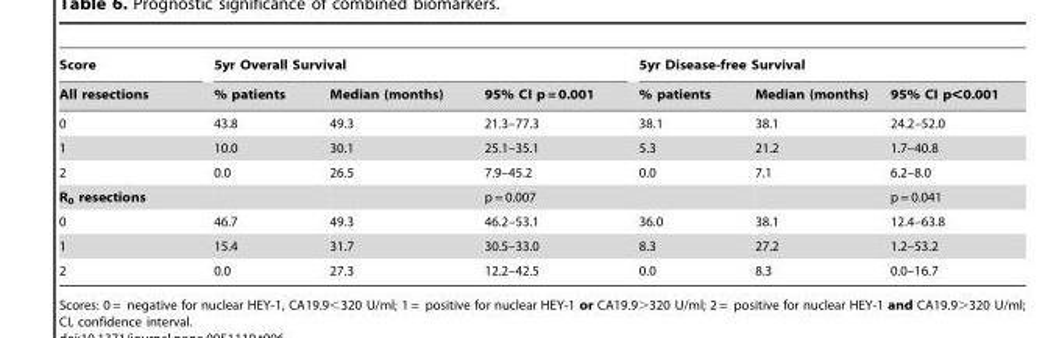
<table><thead><tr><td rowspan="2">Score All resections</td><td colspan="3">5yr Overall Survival</td><td colspan="3">5yr Disease-free Survival</td></tr><tr><td>% patients</td><td>Median (months)</td><td>95% CI p = 0.001</td><td>% patients</td><td>Median (months)</td><td>95% CI p&lt;0.001</td></tr></thead><tbody><tr><td>0</td><td>43.8</td><td>49.3</td><td>21.3–77.3</td><td>38.1</td><td>38.1</td><td>24.2–52.0</td></tr><tr><td>1</td><td>10.0</td><td>30.1</td><td>25.1–35.1</td><td>5.3</td><td>21.2</td><td>1.7–40.8</td></tr><tr><td>2</td><td>0.0</td><td>26.5</td><td>7.9–45.2</td><td>0.0</td><td>7.1</td><td>6.2–8.0</td></tr><tr><td>R<sub>0</sub> resections</td><td></td><td></td><td>p = 0.007</td><td></td><td></td><td>p = 0.041</td></tr><tr><td>0</td><td>46.7</td><td>49.3</td><td>46.2–53.1</td><td>36.0</td><td>38.1</td><td>12.4–63.8</td></tr><tr><td>1</td><td>15.4</td><td>31.7</td><td>30.5–33.0</td><td>8.3</td><td>27.2</td><td>1.2–53.2</td></tr><tr><td>2</td><td>0.0</td><td>27.3</td><td>12.2–42.5</td><td>0.0</td><td>8.3</td><td>0.0–16.7</td></tr></tbody></table>